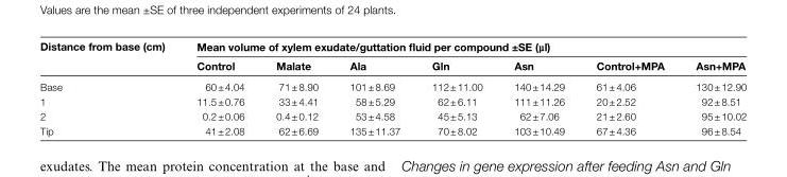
<table><thead><tr><td rowspan="2">Distance from base (cm)</td><td colspan="7">Mean volume of xylem exudate/guttation fluid per compound ±SE (µl)</td></tr><tr><td>Control</td><td>Malate</td><td>Ala</td><td>Gln</td><td>Asn</td><td>Control+MPA</td><td>Asn+MPA</td></tr></thead><tbody><tr><td>Base</td><td>60 ± 4.04</td><td>71 ± 8.90</td><td>101 ± 8.69</td><td>112 ± 11.00</td><td>140 ± 14.29</td><td>61 ± 4.06</td><td>130 ± 12.90</td></tr><tr><td>1</td><td>11.5 ± 0.76</td><td>33 ± 4.41</td><td>58 ± 5.29</td><td>62 ± 6.11</td><td>111 ± 11.26</td><td>20 ± 2.52</td><td>92 ± 8.51</td></tr><tr><td>2</td><td>0.2 ± 0.06</td><td>0.4 ± 0.12</td><td>53 ± 4.58</td><td>45 ± 5.13</td><td>62 ± 7.06</td><td>21 ± 2.60</td><td>95 ± 10.02</td></tr><tr><td>Tip</td><td>41 ± 2.08</td><td>62 ± 6.69</td><td>135 ± 11.37</td><td>70 ± 8.02</td><td>103 ± 10.49</td><td>67 ± 4.36</td><td>96 ± 8.54</td></tr></tbody></table>